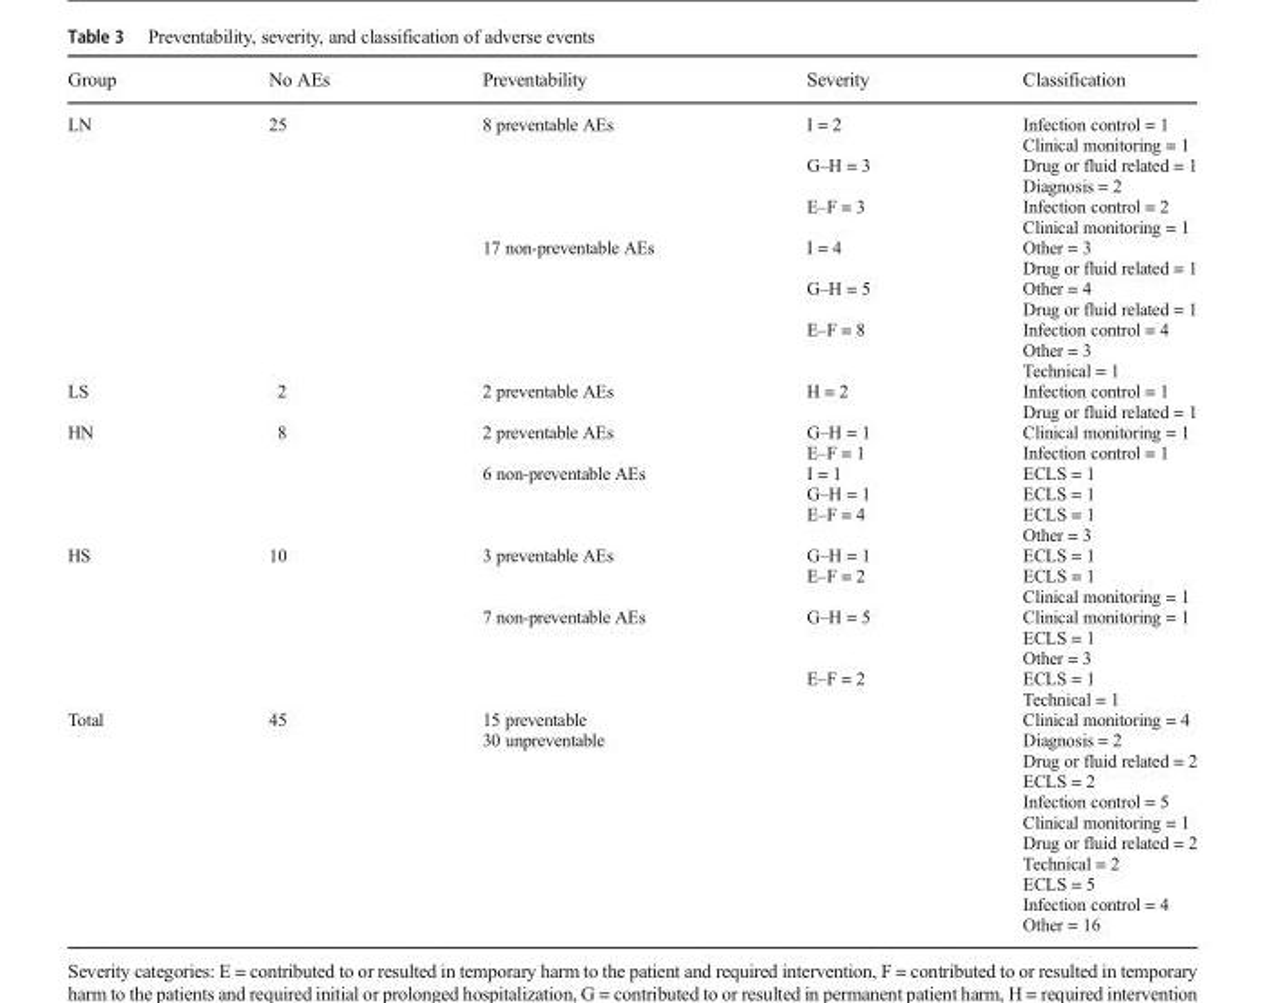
<table><thead><tr><td>Group</td><td>No AEs</td><td>Preventability</td><td>Severity</td><td>Classification</td></tr></thead><tbody><tr><td rowspan="13">LN</td><td rowspan="13">25</td><td rowspan="6">8 preventable AEs</td><td rowspan="2">I = 2</td><td>Infection control = 1</td></tr><tr><td>Clinical monitoring = 1</td></tr><tr><td rowspan="2">G–H = 3</td><td>Drug or fluid related = 1</td></tr><tr><td>Diagnosis = 2</td></tr><tr><td rowspan="2">E–F = 3</td><td>Infection control = 2</td></tr><tr><td>Clinical monitoring = 1</td></tr><tr><td rowspan="7">17 non-preventable AEs</td><td rowspan="2">I = 4</td><td>Other = 3</td></tr><tr><td>Drug or fluid related = 1</td></tr><tr><td rowspan="2">G–H = 5</td><td>Other = 4</td></tr><tr><td>Drug or fluid related = 1</td></tr><tr><td rowspan="3">E–F = 8</td><td>Infection control = 4</td></tr><tr><td>Other = 3</td></tr><tr><td>Technical = 1</td></tr><tr><td rowspan="2">LS</td><td rowspan="2">2</td><td rowspan="2">2 preventable AEs</td><td rowspan="2">H = 2</td><td>Infection control = 1</td></tr><tr><td>Drug or fluid related = 1</td></tr><tr><td rowspan="6">HN</td><td rowspan="6">8</td><td rowspan="2">2 preventable AEs</td><td>G–H = 1</td><td>Clinical monitoring = 1</td></tr><tr><td>E–F = 1</td><td>Infection control = 1</td></tr><tr><td rowspan="4">6 non-preventable AEs</td><td>I = 1</td><td>ECLS = 1</td></tr><tr><td>G–H = 1</td><td>ECLS = 1</td></tr><tr><td rowspan="2">E–F = 4</td><td>ECLS = 1</td></tr><tr><td>Other = 3</td></tr><tr><td rowspan="8">HS</td><td rowspan="8">10</td><td rowspan="3">3 preventable AEs</td><td>G–H = 1</td><td>ECLS = 1</td></tr><tr><td rowspan="2">E–F = 2</td><td>ECLS = 1</td></tr><tr><td>Clinical monitoring = 1</td></tr><tr><td rowspan="5">7 non-preventable AEs</td><td rowspan="3">G–H = 5</td><td>Clinical monitoring = 1</td></tr><tr><td>ECLS = 1</td></tr><tr><td>Other = 3</td></tr><tr><td rowspan="2">E–F = 2</td><td>ECLS = 1</td></tr><tr><td>Technical = 1</td></tr><tr><td rowspan="11">Total</td><td rowspan="11">45</td><td>15 preventable</td><td rowspan="11"></td><td>Clinical monitoring = 4</td></tr><tr><td rowspan="10">30 unpreventable</td><td>Diagnosis = 2</td></tr><tr><td>Drug or fluid related = 2</td></tr><tr><td>ECLS = 2</td></tr><tr><td>Infection control = 5</td></tr><tr><td>Clinical monitoring = 1</td></tr><tr><td>Drug or fluid related = 2</td></tr><tr><td>Technical = 2</td></tr><tr><td>ECLS = 5</td></tr><tr><td>Infection control = 4</td></tr><tr><td>Other = 16</td></tr></tbody></table>